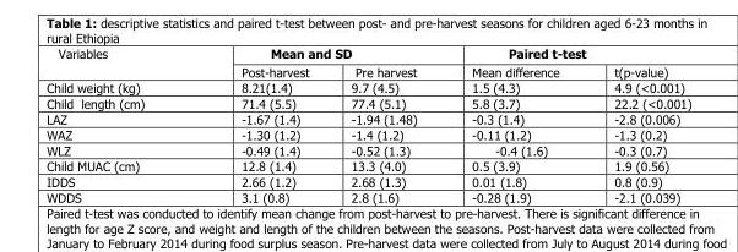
<table><thead><tr><td rowspan="2">Variables</td><td colspan="2">Mean and SD</td><td colspan="2">Paired t-test</td></tr><tr><td>Post-harvest</td><td>Pre harvest</td><td>Mean difference</td><td>t(p-value)</td></tr></thead><tbody><tr><td>Child weight (kg)</td><td>8.21(1.4)</td><td>9.7 (4.5)</td><td>1.5 (4.3)</td><td>4.9 (&lt;0.001)</td></tr><tr><td>Child length (cm)</td><td>71.4 (5.5)</td><td>77.4 (5.1)</td><td>5.8 (3.7)</td><td>22.2 (&lt;0.001)</td></tr><tr><td>LAZ</td><td>-1.67 (1.4)</td><td>-1.94 (1.48)</td><td>-0.3 (1.4)</td><td>-2.8 (0.006)</td></tr><tr><td>WAZ</td><td>-1.30 (1.2)</td><td>-1.4 (1.2)</td><td>-0.11 (1.2)</td><td>-1.3 (0.2)</td></tr><tr><td>WLZ</td><td>-0.49 (1.4)</td><td>-0.52 (1.3)</td><td>-0.4 (1.6)</td><td>-0.3 (0.7)</td></tr><tr><td>Child MUAC (cm)</td><td>12.8 (1.4)</td><td>13.3 (4.0)</td><td>0.5 (3.9)</td><td>1.9 (0.56)</td></tr><tr><td>IDDS</td><td>2.66 (1.2)</td><td>2.68 (1.3)</td><td>0.01 (1.8)</td><td>0.8 (0.9)</td></tr><tr><td>WDDS</td><td>3.1 (0.8)</td><td>2.8 (1.6)</td><td>-0.28 (1.9)</td><td>-2.1 (0.039)</td></tr></tbody></table>